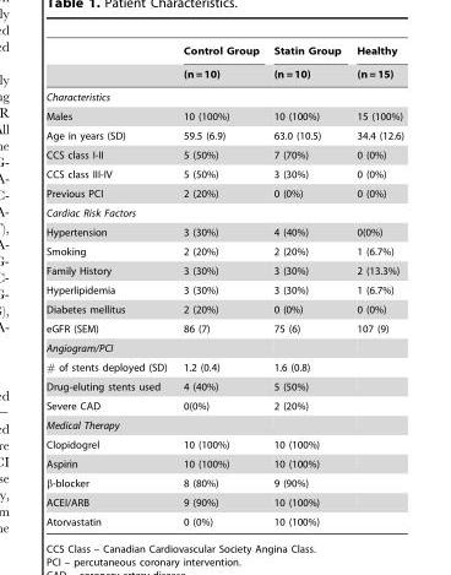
<table><thead><tr><td rowspan="2"></td><td rowspan="2">Control Group (n = 10)</td><td rowspan="2">Statin Group (n = 10)</td><td rowspan="2">Healthy (n = 15)</td></tr><tr></tr></thead><tbody><tr><td colspan="4">Characteristics</td></tr><tr><td>Males</td><td>10 (100%)</td><td>10 (100%)</td><td>15 (100%)</td></tr><tr><td>Age in years (SD)</td><td>59.5 (6.9)</td><td>63.0 (10.5)</td><td>34.4 (12.6)</td></tr><tr><td>CCS class I-II</td><td>5 (50%)</td><td>7 (70%)</td><td>0 (0%)</td></tr><tr><td>CCS class III-IV</td><td>5 (50%)</td><td>3 (30%)</td><td>0 (0%)</td></tr><tr><td>Previous PCI</td><td>2 (20%)</td><td>0 (0%)</td><td>0 (0%)</td></tr><tr><td colspan="4">Cardiac Risk Factors</td></tr><tr><td>Hypertension</td><td>3 (30%)</td><td>4 (40%)</td><td>0(0%)</td></tr><tr><td>Smoking</td><td>2 (20%)</td><td>2 (20%)</td><td>1 (6.7%)</td></tr><tr><td>Family History</td><td>3 (30%)</td><td>3 (30%)</td><td>2 (13.3%)</td></tr><tr><td>Hyperlipidemia</td><td>3 (30%)</td><td>3 (30%)</td><td>1 (6.7%)</td></tr><tr><td>Diabetes mellitus</td><td>2 (20%)</td><td>0 (0%)</td><td>0 (0%)</td></tr><tr><td>eGFR (SEM)</td><td>86 (7)</td><td>75 (6)</td><td>107 (9)</td></tr><tr><td colspan="4">Angiogram/PCI</td></tr><tr><td># of stents deployed (SD)</td><td>1.2 (0.4)</td><td>1.6 (0.8)</td><td></td></tr><tr><td>Drug-eluting stents used</td><td>4 (40%)</td><td>5 (50%)</td><td></td></tr><tr><td>Severe CAD</td><td>0(0%)</td><td>2 (20%)</td><td></td></tr><tr><td colspan="4">Medical Therapy</td></tr><tr><td>Clopidogrel</td><td>10 (100%)</td><td>10 (100%)</td><td></td></tr><tr><td>Aspirin</td><td>10 (100%)</td><td>10 (100%)</td><td></td></tr><tr><td>β-blocker</td><td>8 (80%)</td><td>9 (90%)</td><td></td></tr><tr><td>ACEI/ARB</td><td>9 (90%)</td><td>10 (100%)</td><td></td></tr><tr><td>Atorvastatin</td><td>0 (0%)</td><td>10 (100%)</td><td></td></tr></tbody></table>